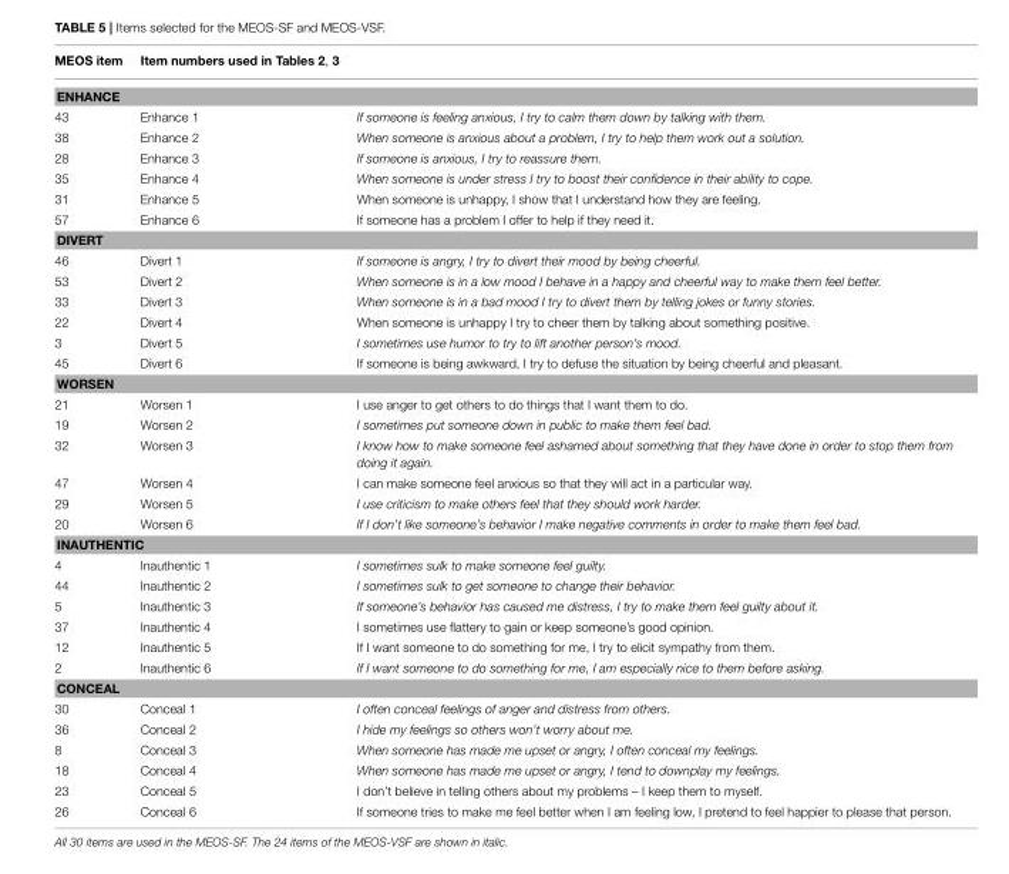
<table><thead><tr><td>MEOS item</td><td>Item numbers used in Tables 2, 3</td><td></td></tr></thead><tbody><tr><td colspan="3">ENHANCE</td></tr><tr><td>43</td><td>Enhance 1</td><td>If someone is feeling anxious, I try to calm them down by talking with them.</td></tr><tr><td>38</td><td>Enhance 2</td><td>When someone is anxious about a problem, I try to help them work out a solution.</td></tr><tr><td>28</td><td>Enhance 3</td><td>If someone is anxious, I try to reassure them.</td></tr><tr><td>35</td><td>Enhance 4</td><td>When someone is under stress I try to boost their confidence in their ability to cope.</td></tr><tr><td>31</td><td>Enhance 5</td><td>When someone is unhappy, I show that I understand how they are feeling.</td></tr><tr><td>57</td><td>Enhance 6</td><td>If someone has a problem I offer to help if they need it.</td></tr><tr><td colspan="3">DIVERT</td></tr><tr><td>46</td><td>Divert 1</td><td>If someone is angry, I try to divert their mood by being cheerful.</td></tr><tr><td>53</td><td>Divert 2</td><td>When someone is in a low mood I behave in a happy and cheerful way to make them feel better.</td></tr><tr><td>33</td><td>Divert 3</td><td>When someone is in a bad mood I try to divert them by telling jokes or funny stories.</td></tr><tr><td>22</td><td>Divert 4</td><td>When someone is unhappy I try to cheer them by talking about something positive.</td></tr><tr><td>3</td><td>Divert 5</td><td>I sometimes use humor to try to lift another person’s mood.</td></tr><tr><td>45</td><td>Divert 6</td><td>If someone is being awkward, I try to defuse the situation by being cheerful and pleasant.</td></tr><tr><td colspan="3">WORSEN</td></tr><tr><td>21</td><td>Worsen 1</td><td>I use anger to get others to do things that I want them to do.</td></tr><tr><td>19</td><td>Worsen 2</td><td>I sometimes put someone down in public to make them feel bad.</td></tr><tr><td>32</td><td>Worsen 3</td><td>I know how to make someone feel ashamed about something that they have done in order to stop them from doing it again.</td></tr><tr><td>47</td><td>Worsen 4</td><td>I can make someone feel anxious so that they will act in a particular way.</td></tr><tr><td>29</td><td>Worsen 5</td><td>I use criticism to make others feel that they should work harder.</td></tr><tr><td>20</td><td>Worsen 6</td><td>If I don’t like someone’s behavior I make negative comments in order to make them feel bad.</td></tr><tr><td colspan="3">INAUTHENTIC</td></tr><tr><td>4</td><td>Inauthentic 1</td><td>I sometimes sulk to make someone feel guilty.</td></tr><tr><td>44</td><td>Inauthentic 2</td><td>I sometimes sulk to get someone to change their behavior.</td></tr><tr><td>5</td><td>Inauthentic 3</td><td>If someone’s behavior has caused me distress, I try to make them feel guilty about it.</td></tr><tr><td>37</td><td>Inauthentic 4</td><td>I sometimes use flattery to gain or keep someone’s good opinion.</td></tr><tr><td>12</td><td>Inauthentic 5</td><td>If I want someone to do something for me, I try to elicit sympathy from them.</td></tr><tr><td>2</td><td>Inauthentic 6</td><td>If I want someone to do something for me, I am especially nice to them before asking.</td></tr><tr><td colspan="3">CONCEAL</td></tr><tr><td>30</td><td>Conceal 1</td><td>I often conceal feelings of anger and distress from others.</td></tr><tr><td>36</td><td>Conceal 2</td><td>I hide my feelings so others won’t worry about me.</td></tr><tr><td>8</td><td>Conceal 3</td><td>When someone has made me upset or angry, I often conceal my feelings.</td></tr><tr><td>18</td><td>Conceal 4</td><td>When someone has made me upset or angry, I tend to downplay my feelings.</td></tr><tr><td>23</td><td>Conceal 5</td><td>I don’t believe in telling others about my problems – I keep them to myself.</td></tr><tr><td>26</td><td>Conceal 6</td><td>If someone tries to make me feel better when I am feeling low, I pretend to feel happier to please that person.</td></tr></tbody></table>